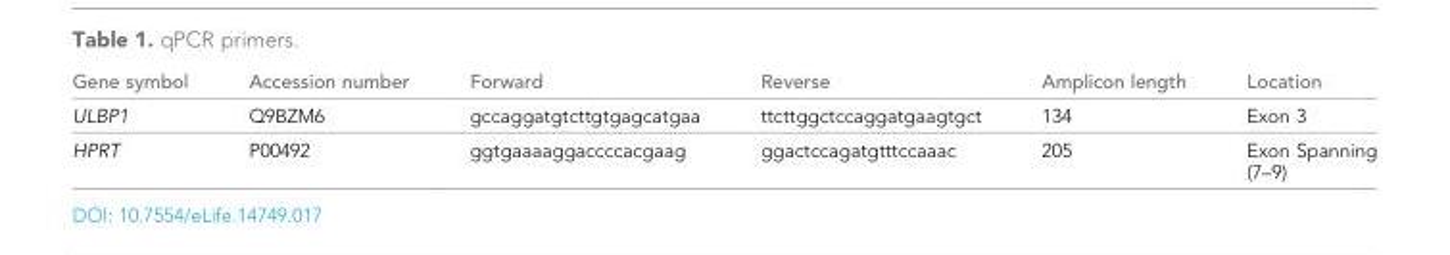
<table><thead><tr><td>Gene symbol</td><td>Accession number</td><td>Forward</td><td>Reverse</td><td>Amplicon length</td><td>Location</td></tr></thead><tbody><tr><td>ULBP1</td><td>Q9BZM6</td><td>gccaggatgtcttgtgagcatgaa</td><td>ttcttggctccaggatgaagtgct</td><td>134</td><td>Exon 3</td></tr><tr><td>HPRT</td><td>P00492</td><td>ggtgaaaaggaccccacgaag</td><td>ggactccagatgtttccaaac</td><td>205</td><td>Exon Spanning (7–9)</td></tr></tbody></table>